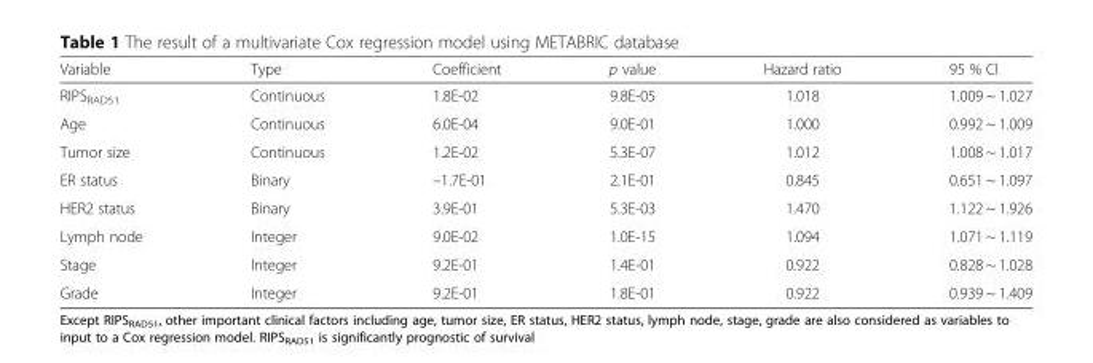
<table><thead><tr><td>Variable</td><td>Type</td><td>Coefficient</td><td>p value</td><td>Hazard ratio</td><td>95 % CI</td></tr></thead><tbody><tr><td>RIPS<sub>RAD51</sub></td><td>Continuous</td><td>1.8E-02</td><td>9.8E-05</td><td>1.018</td><td>1.009 ~ 1.027</td></tr><tr><td>Age</td><td>Continuous</td><td>6.0E-04</td><td>9.0E-01</td><td>1.000</td><td>0.992 ~ 1.009</td></tr><tr><td>Tumor size</td><td>Continuous</td><td>1.2E-02</td><td>5.3E-07</td><td>1.012</td><td>1.008 ~ 1.017</td></tr><tr><td>ER status</td><td>Binary</td><td>–1.7E-01</td><td>2.1E-01</td><td>0.845</td><td>0.651 ~ 1.097</td></tr><tr><td>HER2 status</td><td>Binary</td><td>3.9E-01</td><td>5.3E-03</td><td>1.470</td><td>1.122 ~ 1.926</td></tr><tr><td>Lymph node</td><td>Integer</td><td>9.0E-02</td><td>1.0E-15</td><td>1.094</td><td>1.071 ~ 1.119</td></tr><tr><td>Stage</td><td>Integer</td><td>9.2E-01</td><td>1.4E-01</td><td>0.922</td><td>0.828 ~ 1.028</td></tr><tr><td>Grade</td><td>Integer</td><td>9.2E-01</td><td>1.8E-01</td><td>0.922</td><td>0.939 ~ 1.409</td></tr></tbody></table>